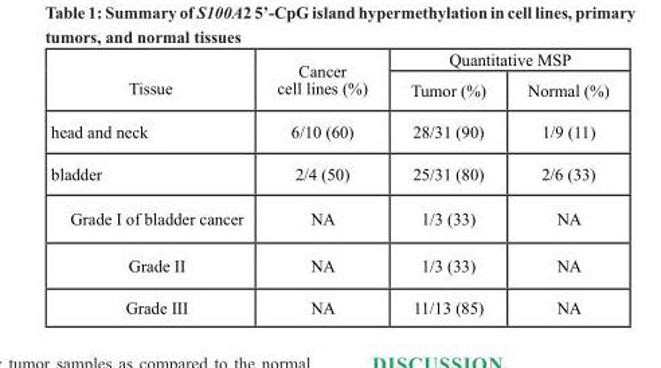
<table><thead><tr><td rowspan="2">Tissue</td><td rowspan="2">Cancer cell lines (%)</td><td colspan="2">Quantitative MSP</td></tr><tr><td>Tumor (%)</td><td>Normal (%)</td></tr></thead><tbody><tr><td>head and neck</td><td>6/10 (60)</td><td>28/31 (90)</td><td>1/9 (11)</td></tr><tr><td>bladder</td><td>2/4 (50)</td><td>25/31 (80)</td><td>2/6 (33)</td></tr><tr><td>Grade I of bladder cancer</td><td>NA</td><td>1/3 (33)</td><td>NA</td></tr><tr><td>Grade II</td><td>NA</td><td>1/3 (33)</td><td>NA</td></tr><tr><td>Grade III</td><td>NA</td><td>11/13 (85)</td><td>NA</td></tr></tbody></table>